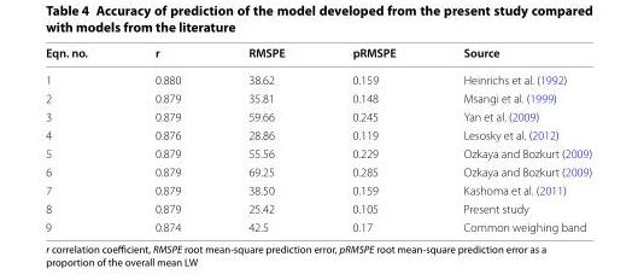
<table><thead><tr><td>Eqn. no.</td><td>r</td><td>RMSPE</td><td>pRMSPE</td><td>Source</td></tr></thead><tbody><tr><td>1</td><td>0.880</td><td>38.62</td><td>0.159</td><td>Heinrichs et al. (1992)</td></tr><tr><td>2</td><td>0.879</td><td>35.81</td><td>0.148</td><td>Msangi et al. (1999)</td></tr><tr><td>3</td><td>0.879</td><td>59.66</td><td>0.245</td><td>Yan et al. (2009)</td></tr><tr><td>4</td><td>0.876</td><td>28.86</td><td>0.119</td><td>Lesosky et al. (2012)</td></tr><tr><td>5</td><td>0.879</td><td>55.56</td><td>0.229</td><td>Ozkaya and Bozkurt (2009)</td></tr><tr><td>6</td><td>0.879</td><td>69.25</td><td>0.285</td><td>Ozkaya and Bozkurt (2009)</td></tr><tr><td>7</td><td>0.879</td><td>38.50</td><td>0.159</td><td>Kashoma et al. (2011)</td></tr><tr><td>8</td><td>0.879</td><td>25.42</td><td>0.105</td><td>Present study</td></tr><tr><td>9</td><td>0.874</td><td>42.5</td><td>0.17</td><td>Common weighing band</td></tr></tbody></table>